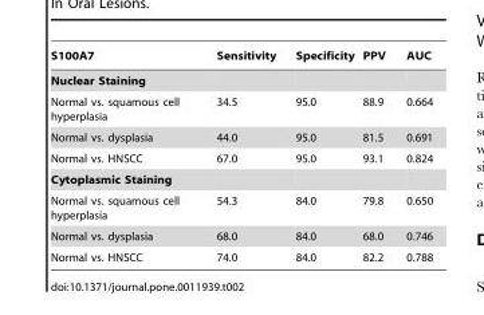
<table><thead><tr><td>S100A7</td><td>Sensitivity</td><td>Specificity</td><td>PPV</td><td>AUC</td></tr></thead><tbody><tr><td colspan="5">Nuclear Staining</td></tr><tr><td>Normal vs. squamous cell hyperplasia</td><td>34.5</td><td>95.0</td><td>88.9</td><td>0.664</td></tr><tr><td>Normal vs. dysplasia</td><td>44.0</td><td>95.0</td><td>81.5</td><td>0.691</td></tr><tr><td>Normal vs. HNSCC</td><td>67.0</td><td>95.0</td><td>93.1</td><td>0.824</td></tr><tr><td colspan="5">Cytoplasmic Staining</td></tr><tr><td>Normal vs. squamous cell hyperplasia</td><td>54.3</td><td>84.0</td><td>79.8</td><td>0.650</td></tr><tr><td>Normal vs. dysplasia</td><td>68.0</td><td>84.0</td><td>68.0</td><td>0.746</td></tr><tr><td>Normal vs. HNSCC</td><td>74.0</td><td>84.0</td><td>82.2</td><td>0.788</td></tr></tbody></table>